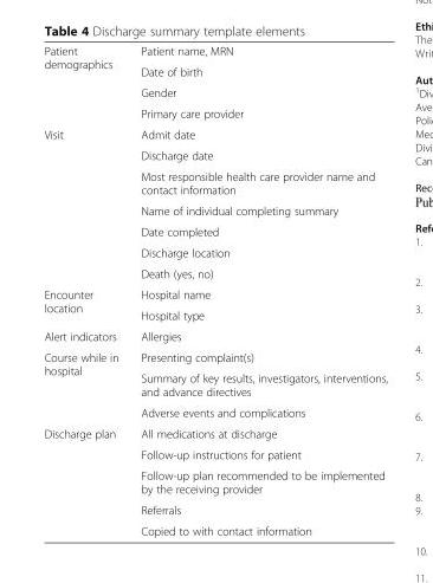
<table><tbody><tr><td rowspan="4">Patient demographics</td><td>Patient name, MRN</td></tr><tr><td>Date of birth</td></tr><tr><td>Gender</td></tr><tr><td>Primary care provider</td></tr><tr><td rowspan="7">Visit</td><td>Admit date</td></tr><tr><td>Discharge date</td></tr><tr><td>Most responsible health care provider name and contact information</td></tr><tr><td>Name of individual completing summary</td></tr><tr><td>Date completed</td></tr><tr><td>Discharge location</td></tr><tr><td>Death (yes, no)</td></tr><tr><td rowspan="2">Encounter location</td><td>Hospital name</td></tr><tr><td>Hospital type</td></tr><tr><td>Alert indicators</td><td>Allergies</td></tr><tr><td rowspan="3">Course while in hospital</td><td>Presenting complaint(s)</td></tr><tr><td>Summary of key results, investigators, interventions, and advance directives</td></tr><tr><td>Adverse events and complications</td></tr><tr><td rowspan="5">Discharge plan</td><td>All medications at discharge</td></tr><tr><td>Follow-up instructions for patient</td></tr><tr><td>Follow-up plan recommended to be implemented by the receiving provider</td></tr><tr><td>Referrals</td></tr><tr><td>Copied to with contact information</td></tr></tbody></table>